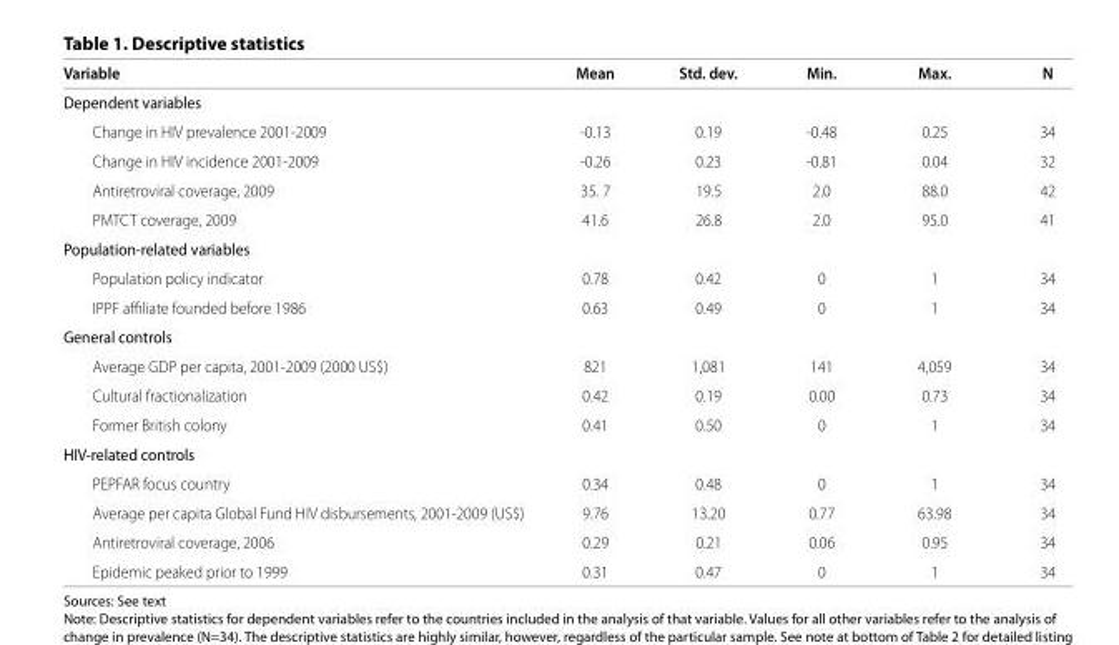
<table><thead><tr><td>Variable</td><td>Mean</td><td>Std. dev.</td><td>Min.</td><td>Max.</td><td>N</td></tr></thead><tbody><tr><td colspan="6">Dependent variables</td></tr><tr><td>Change in HIV prevalence 2001-2009</td><td>-0.13</td><td>0.19</td><td>-0.48</td><td>0.25</td><td>34</td></tr><tr><td>Change in HIV incidence 2001-2009</td><td>-0.26</td><td>0.23</td><td>-0.81</td><td>0.04</td><td>32</td></tr><tr><td>Antiretroviral coverage, 2009</td><td>35. 7</td><td>19.5</td><td>2.0</td><td>8 8.0</td><td>42</td></tr><tr><td>PMTCT coverage, 2009</td><td>41.6</td><td>26.8</td><td>2.0</td><td>95.0</td><td>41</td></tr><tr><td colspan="6">Population-related variables</td></tr><tr><td>Population policy indica tor</td><td>0.78</td><td>0.42</td><td>0</td><td>1</td><td>34</td></tr><tr><td>IPPF affi liate founded before 1986</td><td>0.63</td><td>0.49</td><td>0</td><td>1</td><td>34</td></tr><tr><td colspan="6">General controls</td></tr><tr><td>Average GDP per capita, 2001-2009 (2000 US$)</td><td>821</td><td>1,081</td><td>141</td><td>4,059</td><td>34</td></tr><tr><td>Cultural fractionalization</td><td>0.42</td><td>0.19</td><td>0.00</td><td>0.73</td><td>34</td></tr><tr><td>Former British colony</td><td>0.41</td><td>0.50</td><td>0</td><td>1</td><td>34</td></tr><tr><td colspan="6">HIV-related controls</td></tr><tr><td>PEPFAR focus country</td><td>0.34</td><td>0.48</td><td>0</td><td>1</td><td>34</td></tr><tr><td>Average per capita Global Fund HIV disbursements, 2001-2009 (US$)</td><td>9.76</td><td>13.20</td><td>0.77</td><td>63.98</td><td>34</td></tr><tr><td>Antiretroviral coverage, 2006</td><td>0.29</td><td>0.21</td><td>0.06</td><td>0.95</td><td>34</td></tr><tr><td>Epidemic peaked prior to 1999</td><td>0.31</td><td>0.47</td><td>0</td><td>1</td><td>34</td></tr></tbody></table>